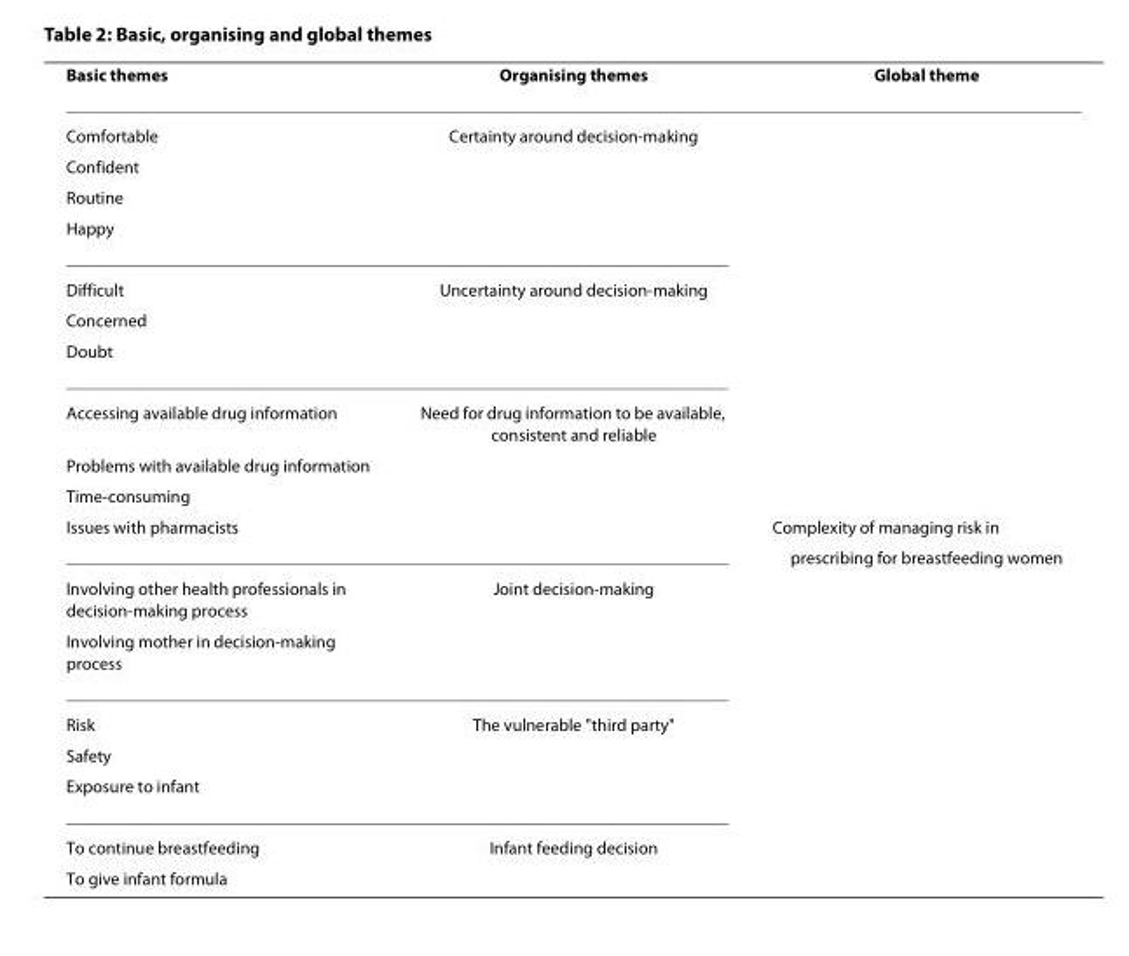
<table><thead><tr><td>Basic themes</td><td>Organising themes</td><td>Global theme</td></tr></thead><tbody><tr><td>Comfortable</td><td>Certainty around decision-making</td><td></td></tr><tr><td colspan="3">Confident</td></tr><tr><td colspan="3">Routine</td></tr><tr><td colspan="3">Happy</td></tr><tr><td>Difficult</td><td>Uncertainty around decision-making</td><td></td></tr><tr><td colspan="3">Concerned</td></tr><tr><td colspan="3">Doubt</td></tr><tr><td>Accessing available drug information</td><td>Need for drug information to be available, consistent and reliable</td><td></td></tr><tr><td colspan="3">Problems with available drug information</td></tr><tr><td colspan="3">Time-consuming</td></tr><tr><td>Issues with pharmacists</td><td></td><td>Complexity of managing risk in</td></tr><tr><td colspan="2"></td><td>prescribing for breastfeeding women</td></tr><tr><td>Involving other health professionals in decision-making process</td><td>Joint decision-making</td><td></td></tr><tr><td colspan="3">Involving mother in decision-making process</td></tr><tr><td>Risk</td><td>The vulnerable &quot;third party&quot;</td><td></td></tr><tr><td colspan="3">Safety</td></tr><tr><td colspan="3">Exposure to infant</td></tr><tr><td>To continue breastfeeding</td><td>Infant feeding decision</td><td></td></tr><tr><td>To give infant formula</td><td></td><td></td></tr></tbody></table>